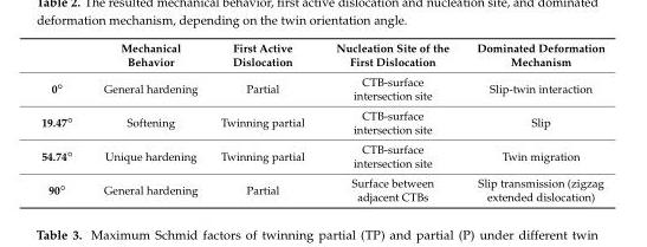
<table><thead><tr><td></td><td>Mechanical Behavior</td><td>First Active Dislocation</td><td>Nucleation Site of the First Dislocation</td><td>Dominated Deformation Mechanism</td></tr></thead><tbody><tr><td>0◦</td><td>General hardening</td><td>Partial</td><td>CTB-surface intersection site</td><td>Slip-twin interaction</td></tr><tr><td>19.47◦</td><td>Softening</td><td>Twinning partial</td><td>CTB-surface intersection site</td><td>Slip</td></tr><tr><td>54.74◦</td><td>Unique hardening</td><td>Twinning partial</td><td>CTB-surface intersection site</td><td>Twin migration</td></tr><tr><td>90◦</td><td>General hardening</td><td>Partial</td><td>Surface between adjacent CTBs</td><td>Slip transmission (zigzag extended dislocation)</td></tr></tbody></table>